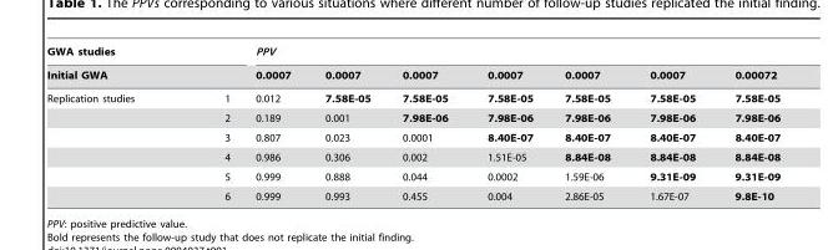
<table><thead><tr><td rowspan="2" colspan="2">GWA studies Initial GWA</td><td colspan="7">PPV</td></tr><tr><td rowspan="2">0.0007 0.012</td><td rowspan="2">0.0007 7.58E-05</td><td rowspan="2">0.0007 7.58E-05</td><td rowspan="2">0.0007 7.58E-05</td><td rowspan="2">0.0007 7.58E-05</td><td rowspan="2">0.0007 7.58E-05</td><td rowspan="2">0.00072 7.58E-05</td></tr><tr><td>Replication studies</td><td>1</td></tr></thead><tbody><tr><td></td><td>2</td><td>0.189</td><td>0.001</td><td>7.98E-06</td><td>7.98E-06</td><td>7.98E-06</td><td>7.98E-06</td><td>7.98E-06</td></tr><tr><td></td><td>3</td><td>0.807</td><td>0.023</td><td>0.0001</td><td>8.40E-07</td><td>8.40E-07</td><td>8.40E-07</td><td>8.40E-07</td></tr><tr><td></td><td>4</td><td>0.986</td><td>0.306</td><td>0.002</td><td>1.51E-05</td><td>8.84E-08</td><td>8.84E-08</td><td>8.84E-08</td></tr><tr><td></td><td>5</td><td>0.999</td><td>0.888</td><td>0.044</td><td>0.0002</td><td>1.59E-06</td><td>9.31E-09</td><td>9.31E-09</td></tr><tr><td></td><td>6</td><td>0.999</td><td>0.993</td><td>0.455</td><td>0.004</td><td>2.86E-05</td><td>1.67E-07</td><td>9.8E-10</td></tr></tbody></table>